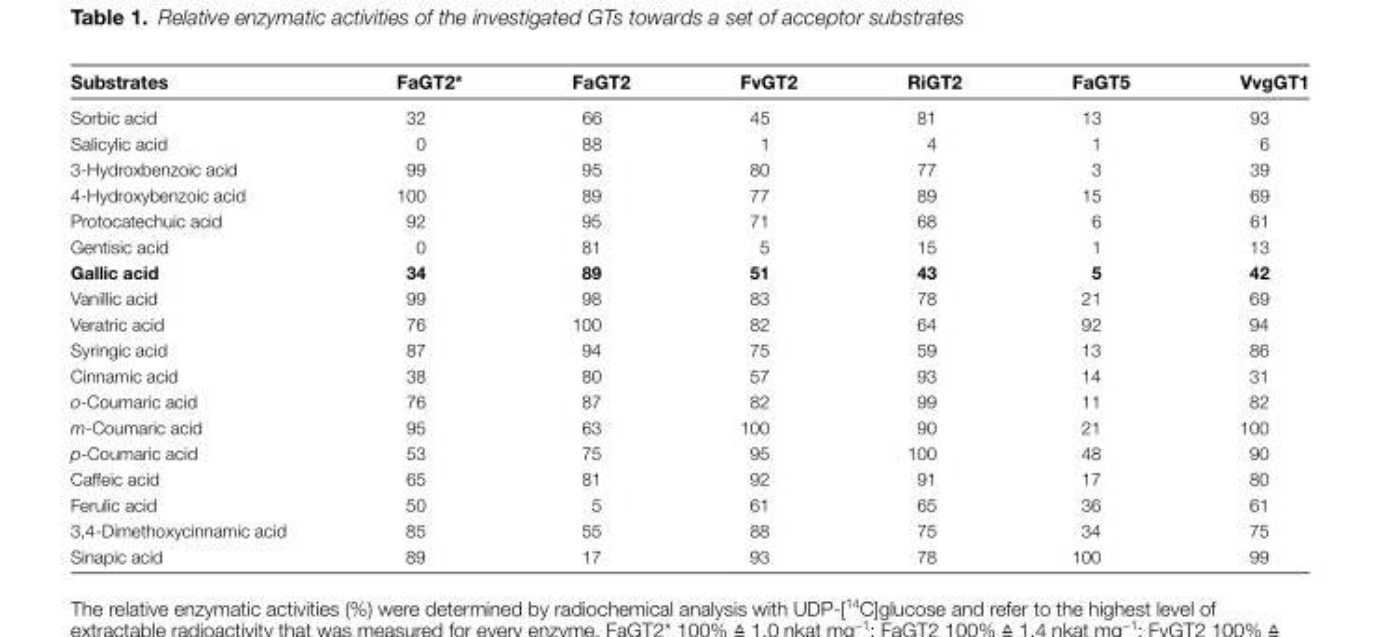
<table><thead><tr><td>Substrates</td><td>FaGT2*</td><td>FaGT2</td><td>FvGT2</td><td>RiGT2</td><td>FaGT5</td><td>VvgGT1</td></tr></thead><tbody><tr><td>Sorbic acid</td><td>32</td><td>66</td><td>45</td><td>81</td><td>13</td><td>93</td></tr><tr><td>Salicylic acid</td><td>0</td><td>88</td><td>1</td><td>4</td><td>1</td><td>6</td></tr><tr><td>3-Hydroxbenzoic acid</td><td>99</td><td>95</td><td>80</td><td>77</td><td>3</td><td>39</td></tr><tr><td>4-Hydroxybenzoic acid</td><td>100</td><td>89</td><td>77</td><td>89</td><td>15</td><td>69</td></tr><tr><td>Protocatechuic acid</td><td>92</td><td>95</td><td>71</td><td>68</td><td>6</td><td>61</td></tr><tr><td>Gentisic acid</td><td>0</td><td>81</td><td>5</td><td>15</td><td>1</td><td>13</td></tr><tr><td>Gallic acid</td><td>34</td><td>89</td><td>51</td><td>43</td><td>5</td><td>42</td></tr><tr><td>Vanillic acid</td><td>99</td><td>98</td><td>83</td><td>78</td><td>21</td><td>69</td></tr><tr><td>Veratric acid</td><td>76</td><td>100</td><td>82</td><td>64</td><td>92</td><td>94</td></tr><tr><td>Syringic acid</td><td>87</td><td>94</td><td>75</td><td>59</td><td>13</td><td>86</td></tr><tr><td>Cinnamic acid</td><td>38</td><td>80</td><td>57</td><td>93</td><td>14</td><td>31</td></tr><tr><td>o-Coumaric acid</td><td>76</td><td>87</td><td>82</td><td>99</td><td>11</td><td>82</td></tr><tr><td>m-Coumaric acid</td><td>95</td><td>63</td><td>100</td><td>90</td><td>21</td><td>100</td></tr><tr><td>p-Coumaric acid</td><td>53</td><td>75</td><td>95</td><td>100</td><td>48</td><td>90</td></tr><tr><td>Caffeic acid</td><td>65</td><td>81</td><td>92</td><td>91</td><td>17</td><td>80</td></tr><tr><td>Ferulic acid</td><td>50</td><td>5</td><td>61</td><td>65</td><td>36</td><td>61</td></tr><tr><td>3,4-Dimethoxycinnamic acid</td><td>85</td><td>55</td><td>88</td><td>75</td><td>34</td><td>75</td></tr><tr><td>Sinapic acid</td><td>89</td><td>17</td><td>93</td><td>78</td><td>100</td><td>99</td></tr></tbody></table>